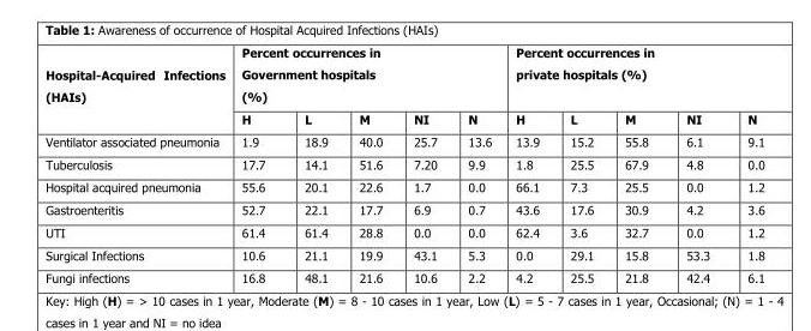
<table><thead><tr><td rowspan="2">Hospital-Acquired Infections (HAIs)</td><td colspan="5">Percent occurrences in Government hospitals (%)</td><td colspan="5">Percent occurrences in private hospitals (%)</td></tr><tr><td>H</td><td>L</td><td>M</td><td>NI</td><td>N</td><td>H</td><td>L</td><td>M</td><td>NI</td><td>N</td></tr></thead><tbody><tr><td>Ventilator associated pneumonia</td><td>1.9</td><td>18.9</td><td>40.0</td><td>25.7</td><td>13.6</td><td>13.9</td><td>15.2</td><td>55.8</td><td>6.1</td><td>9.1</td></tr><tr><td>Tuberculosis</td><td>17.7</td><td>14.1</td><td>51.6</td><td>7.20</td><td>9.9</td><td>1.8</td><td>25.5</td><td>67.9</td><td>4.8</td><td>0.0</td></tr><tr><td>Hospital acquired pneumonia</td><td>55.6</td><td>20.1</td><td>22.6</td><td>1.7</td><td>0.0</td><td>66.1</td><td>7.3</td><td>25.5</td><td>0.0</td><td>1.2</td></tr><tr><td>Gastroenteritis</td><td>52.7</td><td>22.1</td><td>17.7</td><td>6.9</td><td>0.7</td><td>43.6</td><td>17.6</td><td>30.9</td><td>4.2</td><td>3.6</td></tr><tr><td>UTI</td><td>61.4</td><td>61.4</td><td>28.8</td><td>0.0</td><td>0.0</td><td>62.4</td><td>3.6</td><td>32.7</td><td>0.0</td><td>1.2</td></tr><tr><td>Surgical Infections</td><td>10.6</td><td>21.1</td><td>19.9</td><td>43.1</td><td>5.3</td><td>0.0</td><td>29.1</td><td>15.8</td><td>53.3</td><td>1.8</td></tr><tr><td>Fungi infections</td><td>16.8</td><td>48.1</td><td>21.6</td><td>10.6</td><td>2.2</td><td>4.2</td><td>25.5</td><td>21.8</td><td>42.4</td><td>6.1</td></tr></tbody></table>